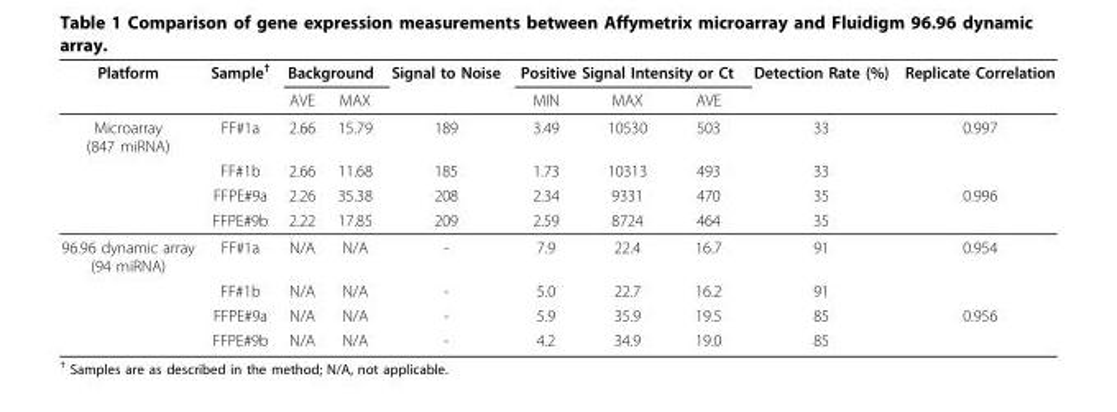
<table><thead><tr><td rowspan="2">Platform</td><td rowspan="2">Sample<sup>†</sup></td><td colspan="2">Background</td><td rowspan="2">Signal to Noise</td><td colspan="3">Positive Signal Intensity or Ct</td><td rowspan="2">Detection Rate (%)</td><td rowspan="2">Replicate Correlation</td></tr><tr><td>AVE</td><td>MAX</td><td>MIN</td><td>MAX</td><td>AVE</td></tr></thead><tbody><tr><td rowspan="4">Microarray (847 miRNA)</td><td>FF#1a</td><td>2.66</td><td>15.79</td><td>189</td><td>3.49</td><td>10530</td><td>503</td><td>33</td><td>0.997</td></tr><tr><td>FF#1b</td><td>2.66</td><td>11.68</td><td>185</td><td>1.73</td><td>10313</td><td>493</td><td>33</td><td></td></tr><tr><td>FFPE#9a</td><td>2.26</td><td>35.38</td><td>208</td><td>2.34</td><td>9331</td><td>470</td><td>35</td><td>0.996</td></tr><tr><td>FFPE#9b</td><td>2.22</td><td>17.85</td><td>209</td><td>2.59</td><td>8724</td><td>464</td><td>35</td><td></td></tr><tr><td rowspan="4">96.96 dynamic array (94 miRNA)</td><td>FF#1a</td><td>N/A</td><td>N/A</td><td>-</td><td>7.9</td><td>22.4</td><td>16.7</td><td>91</td><td>0.954</td></tr><tr><td>FF#1b</td><td>N/A</td><td>N/A</td><td>-</td><td>5.0</td><td>22.7</td><td>16.2</td><td>91</td><td></td></tr><tr><td>FFPE#9a</td><td>N/A</td><td>N/A</td><td>-</td><td>5.9</td><td>35.9</td><td>19.5</td><td>85</td><td>0.956</td></tr><tr><td>FFPE#9b</td><td>N/A</td><td>N/A</td><td>-</td><td>4.2</td><td>34.9</td><td>19.0</td><td>85</td><td></td></tr></tbody></table>